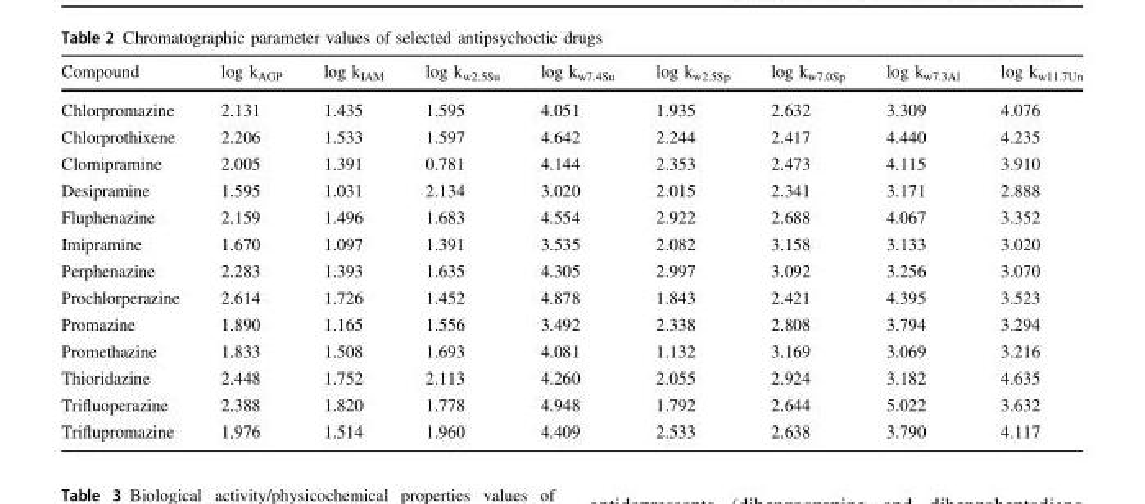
<table><thead><tr><td>Compound</td><td>log k<sub>AGP</sub></td><td>log k<sub>IAM</sub></td><td>log k<sub>w2.5Su</sub></td><td>log k<sub>w7.4Su</sub></td><td>log k<sub>w2.5Sp</sub></td><td>log k<sub>w7.0Sp</sub></td><td>log k<sub>w7.3Al</sub></td><td>log k<sub>w11.7Un</sub></td></tr></thead><tbody><tr><td>Chlorpromazine</td><td>2.131</td><td>1.435</td><td>1.595</td><td>4.051</td><td>1.935</td><td>2.632</td><td>3.309</td><td>4.076</td></tr><tr><td>Chlorprothixene</td><td>2.206</td><td>1.533</td><td>1.597</td><td>4.642</td><td>2.244</td><td>2.417</td><td>4.440</td><td>4.235</td></tr><tr><td>Clomipramine</td><td>2.005</td><td>1.391</td><td>0.781</td><td>4.144</td><td>2.353</td><td>2.473</td><td>4.115</td><td>3.910</td></tr><tr><td>Desipramine</td><td>1.595</td><td>1.031</td><td>2.134</td><td>3.020</td><td>2.015</td><td>2.341</td><td>3.171</td><td>2.888</td></tr><tr><td>Fluphenazine</td><td>2.159</td><td>1.496</td><td>1.683</td><td>4.554</td><td>2.922</td><td>2.688</td><td>4.067</td><td>3.352</td></tr><tr><td>Imipramine</td><td>1.670</td><td>1.097</td><td>1.391</td><td>3.535</td><td>2.082</td><td>3.158</td><td>3.133</td><td>3.020</td></tr><tr><td>Perphenazine</td><td>2.283</td><td>1.393</td><td>1.635</td><td>4.305</td><td>2.997</td><td>3.092</td><td>3.256</td><td>3.070</td></tr><tr><td>Prochlorperazine</td><td>2.614</td><td>1.726</td><td>1.452</td><td>4.878</td><td>1.843</td><td>2.421</td><td>4.395</td><td>3.523</td></tr><tr><td>Promazine</td><td>1.890</td><td>1.165</td><td>1.556</td><td>3.492</td><td>2.338</td><td>2.808</td><td>3.794</td><td>3.294</td></tr><tr><td>Promethazine</td><td>1.833</td><td>1.508</td><td>1.693</td><td>4.081</td><td>1.132</td><td>3.169</td><td>3.069</td><td>3.216</td></tr><tr><td>Thioridazine</td><td>2.448</td><td>1.752</td><td>2.113</td><td>4.260</td><td>2.055</td><td>2.924</td><td>3.182</td><td>4.635</td></tr><tr><td>Trifluoperazine</td><td>2.388</td><td>1.820</td><td>1.778</td><td>4.948</td><td>1.792</td><td>2.644</td><td>5.022</td><td>3.632</td></tr><tr><td>Triflupromazine</td><td>1.976</td><td>1.514</td><td>1.960</td><td>4.409</td><td>2.533</td><td>2.638</td><td>3.790</td><td>4.117</td></tr></tbody></table>